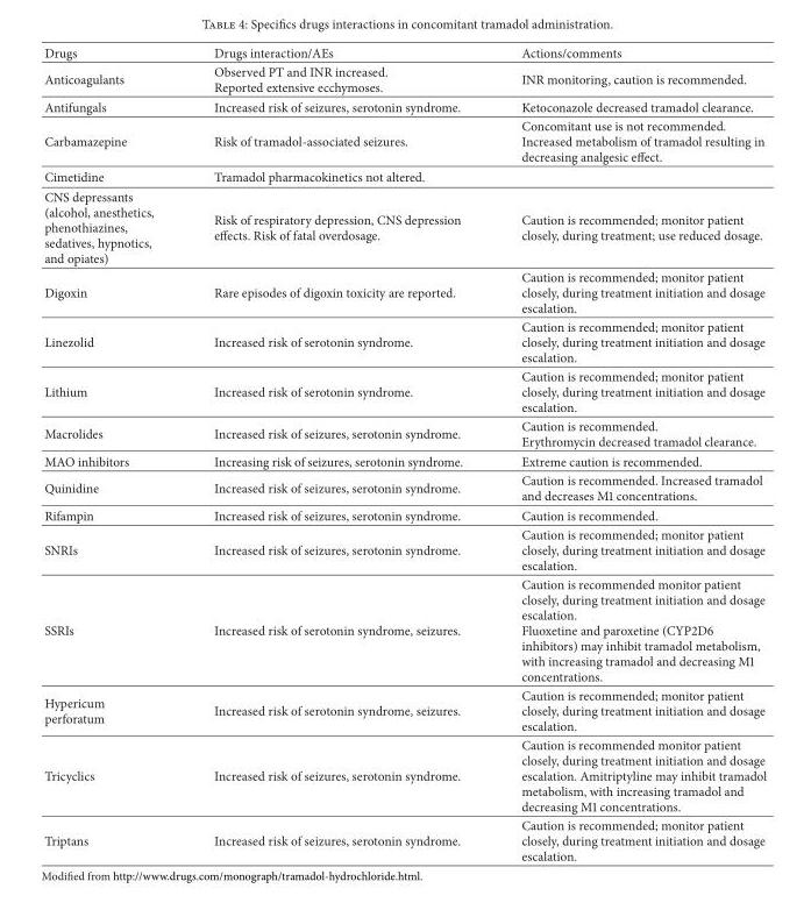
<table><thead><tr><td>Drugs</td><td>Drugs interaction/AEs</td><td>Actions/comments</td></tr></thead><tbody><tr><td>Anticoagulants</td><td>Observed PT and INR increased. Reported extensive ecchymoses.</td><td>INR monitoring, caution is recommended.</td></tr><tr><td>Antifungals</td><td>Increased risk of seizures, serotonin syndrome.</td><td>Ketoconazole decreased tramadol clearance.</td></tr><tr><td>Carbamazepine</td><td>Risk of tramadol-associated seizures.</td><td>Concomitant use is not recommended. Increased metabolism of tramadol resulting in decreasing analgesic effect.</td></tr><tr><td>Cimetidine</td><td>Tramadol pharmacokinetics not altered.</td><td></td></tr><tr><td>CNS depressants (alcohol, anesthetics, phenothiazines, sedatives, hypnotics, and opiates)</td><td>Risk of respiratory depression, CNS depression effects. Risk of fatal overdosage.</td><td>Caution is recommended; monitor patient closely, during treatment; use reduced dosage.</td></tr><tr><td>Digoxin</td><td>Rare episodes of digoxin toxicity are reported.</td><td>Caution is recommended; monitor patient closely, during treatment initiation and dosage escalation.</td></tr><tr><td>Linezolid</td><td>Increased risk of serotonin syndrome.</td><td>Caution is recommended; monitor patient closely, during treatment initiation and dosage escalation.</td></tr><tr><td>Lithium</td><td>Increased risk of serotonin syndrome.</td><td>Caution is recommended; monitor patient closely, during treatment initiation and dosage escalation.</td></tr><tr><td>Macrolides</td><td>Increased risk of seizures, serotonin syndrome.</td><td>Caution is recommended. Erythromycin decreased tramadol clearance.</td></tr><tr><td>MAO inhibitors</td><td>Increasing risk of seizures, serotonin syndrome.</td><td>Extreme caution is recommended.</td></tr><tr><td>Quinidine</td><td>Increased risk of seizures, serotonin syndrome.</td><td>Caution is recommended. Increased tramadol and decreases M1 concentrations.</td></tr><tr><td>Rifampin</td><td>Increased risk of seizures, serotonin syndrome.</td><td>Caution is recommended.</td></tr><tr><td>SNRIs</td><td>Increased risk of seizures, serotonin syndrome.</td><td>Caution is recommended; monitor patient closely, during treatment initiation and dosage escalation.</td></tr><tr><td>SSRIs</td><td>Increased risk of serotonin syndrome, seizures.</td><td>Caution is recommended monitor patient closely, during treatment initiation and dosage escalation. Fluoxetine and paroxetine (CYP2D6 inhibitors) may inhibit tramadol metabolism, with increasing tramadol and decreasing M1 concentrations.</td></tr><tr><td>Hypericum perforatum</td><td>Increased risk of serotonin syndrome, seizures.</td><td>Caution is recommended; monitor patient closely, during treatment initiation and dosage escalation.</td></tr><tr><td>Tricyclics</td><td>Increased risk of seizures, serotonin syndrome.</td><td>Caution is recommended monitor patient closely, during treatment initiation and dosage escalation. Amitriptyline may inhibit tramadol metabolism, with increasing tramadol and decreasing M1 concentrations.</td></tr><tr><td>Triptans</td><td>Increased risk of seizures, serotonin syndrome.</td><td>Caution is recommended; monitor patient closely, during treatment initiation and dosage escalation.</td></tr></tbody></table>